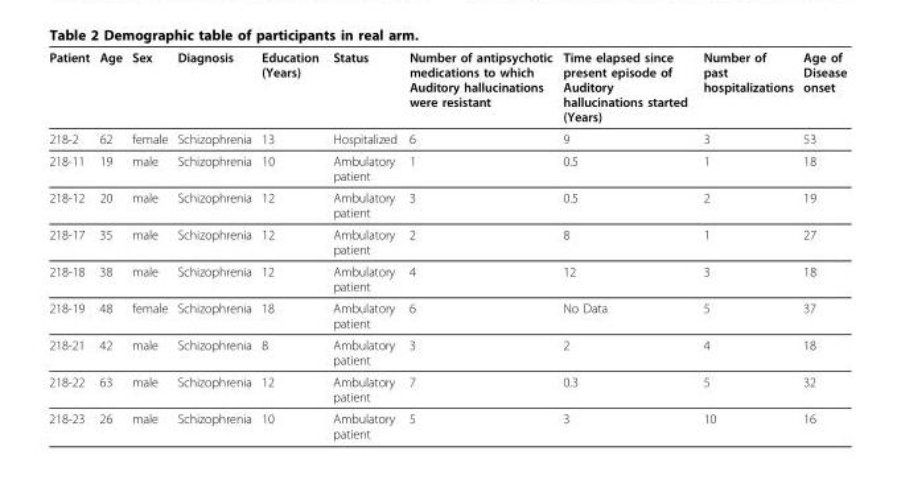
<table><thead><tr><td>Patient</td><td>Age</td><td>Sex</td><td>Diagnosis</td><td>Education (Years)</td><td>Status</td><td>Number of antipsychotic medications to which Auditory hallucinations were resistant</td><td>Time elapsed since present episode of Auditory hallucinations started (Years)</td><td>Number of past hospitalizations</td><td>Age of Disease onset</td></tr></thead><tbody><tr><td>218-2</td><td>62</td><td>female</td><td>Schizophrenia</td><td>13</td><td>Hospitalized</td><td>6</td><td>9</td><td>3</td><td>53</td></tr><tr><td>218-11</td><td>19</td><td>male</td><td>Schizophrenia</td><td>10</td><td>Ambulatory patient</td><td>1</td><td>0.5</td><td>1</td><td>18</td></tr><tr><td>218-12</td><td>20</td><td>male</td><td>Schizophrenia</td><td>12</td><td>Ambulatory patient</td><td>3</td><td>0.5</td><td>2</td><td>19</td></tr><tr><td>218-17</td><td>35</td><td>male</td><td>Schizophrenia</td><td>12</td><td>Ambulatory patient</td><td>2</td><td>8</td><td>1</td><td>27</td></tr><tr><td>218-18</td><td>38</td><td>male</td><td>Schizophrenia</td><td>12</td><td>Ambulatory patient</td><td>4</td><td>12</td><td>3</td><td>18</td></tr><tr><td>218-19</td><td>48</td><td>female</td><td>Schizophrenia</td><td>18</td><td>Ambulatory patient</td><td>6</td><td>No Data</td><td>5</td><td>37</td></tr><tr><td>218-21</td><td>42</td><td>male</td><td>Schizophrenia</td><td>8</td><td>Ambulatory patient</td><td>3</td><td>2</td><td>4</td><td>18</td></tr><tr><td>218-22</td><td>63</td><td>male</td><td>Schizophrenia</td><td>12</td><td>Ambulatory patient</td><td>7</td><td>0.3</td><td>5</td><td>32</td></tr><tr><td>218-23</td><td>26</td><td>male</td><td>Schizophrenia</td><td>10</td><td>Ambulatory patient</td><td>5</td><td>3</td><td>10</td><td>16</td></tr></tbody></table>